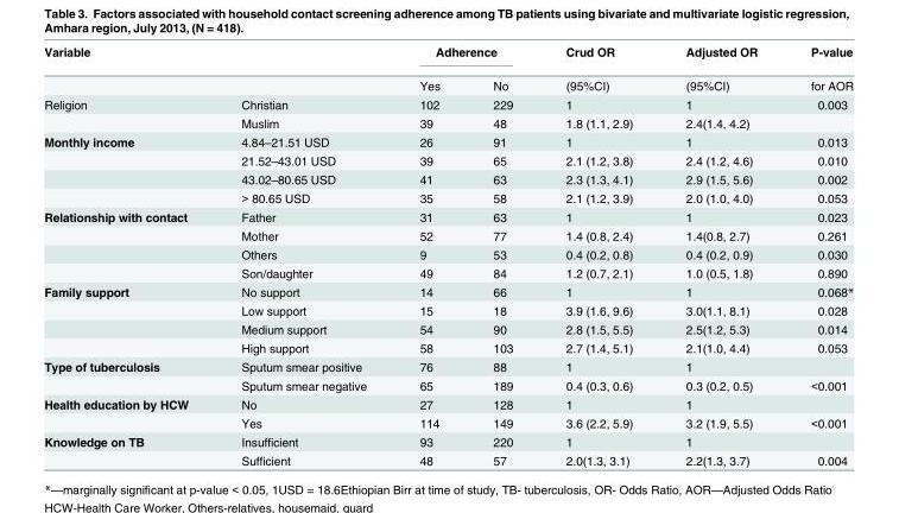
<table><thead><tr><td rowspan="2">Variable</td><td rowspan="2"></td><td colspan="2">Adherence</td><td rowspan="2">Crud OR (95%CI)</td><td rowspan="2">Adjusted OR (95%CI)</td><td rowspan="2">P-value for AOR</td></tr><tr><td>Yes</td><td>No</td></tr></thead><tbody><tr><td rowspan="2">Religion</td><td>Christian</td><td>102</td><td>229</td><td>1</td><td>1</td><td>0.003</td></tr><tr><td>Muslim</td><td>39</td><td>48</td><td>1.8 (1.1, 2.9)</td><td>2.4(1.4, 4.2)</td><td></td></tr><tr><td rowspan="4">Monthly income</td><td>4.84–21.51 USD</td><td>26</td><td>91</td><td>1</td><td>1</td><td>0.013</td></tr><tr><td>21.52–43.01 USD</td><td>39</td><td>65</td><td>2.1 (1.2, 3.8)</td><td>2.4 (1.2, 4.6)</td><td>0.010</td></tr><tr><td>43.02–80.65 USD</td><td>41</td><td>63</td><td>2.3 (1.3, 4.1)</td><td>2.9 (1.5, 5.6)</td><td>0.002</td></tr><tr><td>&gt; 80.65 USD</td><td>35</td><td>58</td><td>2.1 (1.2, 3.9)</td><td>2.0 (1.0, 4.0)</td><td>0.053</td></tr><tr><td rowspan="4">Relationship with contact</td><td>Father</td><td>31</td><td>63</td><td>1</td><td>1</td><td>0.023</td></tr><tr><td>Mother</td><td>52</td><td>77</td><td>1.4 (0.8, 2.4)</td><td>1.4(0.8, 2.7)</td><td>0.261</td></tr><tr><td>Others</td><td>9</td><td>53</td><td>0.4 (0.2, 0.8)</td><td>0.4 (0.2, 0.9)</td><td>0.030</td></tr><tr><td>Son/daughter</td><td>49</td><td>84</td><td>1.2 (0.7, 2.1)</td><td>1.0 (0.5, 1.8)</td><td>0.890</td></tr><tr><td rowspan="4">Family support</td><td>No support</td><td>14</td><td>66</td><td>1</td><td>1</td><td>0.068*</td></tr><tr><td>Low support</td><td>15</td><td>18</td><td>3.9 (1.6, 9.6)</td><td>3.0(1.1, 8.1)</td><td>0.028</td></tr><tr><td>Medium support</td><td>54</td><td>90</td><td>2.8 (1.5, 5.5)</td><td>2.5(1.2, 5.3)</td><td>0.014</td></tr><tr><td>High support</td><td>58</td><td>103</td><td>2.7 (1.4, 5.1)</td><td>2.1(1.0, 4.4)</td><td>0.053</td></tr><tr><td rowspan="2">Type of tuberculosis</td><td>Sputum smear positive</td><td>76</td><td>88</td><td>1</td><td>1</td><td></td></tr><tr><td>Sputum smear negative</td><td>65</td><td>189</td><td>0.4 (0.3, 0.6)</td><td>0.3 (0.2, 0.5)</td><td>&lt;0.001</td></tr><tr><td rowspan="2">Health education by HCW</td><td>No</td><td>27</td><td>128</td><td>1</td><td>1</td><td></td></tr><tr><td>Yes</td><td>114</td><td>149</td><td>3.6 (2.2, 5.9)</td><td>3.2 (1.9, 5.5)</td><td>&lt;0.001</td></tr><tr><td rowspan="2">Knowledge on TB</td><td>Insufficient</td><td>93</td><td>220</td><td>1</td><td>1</td><td></td></tr><tr><td>Sufficient</td><td>48</td><td>57</td><td>2.0(1.3, 3.1)</td><td>2.2(1.3, 3.7)</td><td>0.004</td></tr></tbody></table>